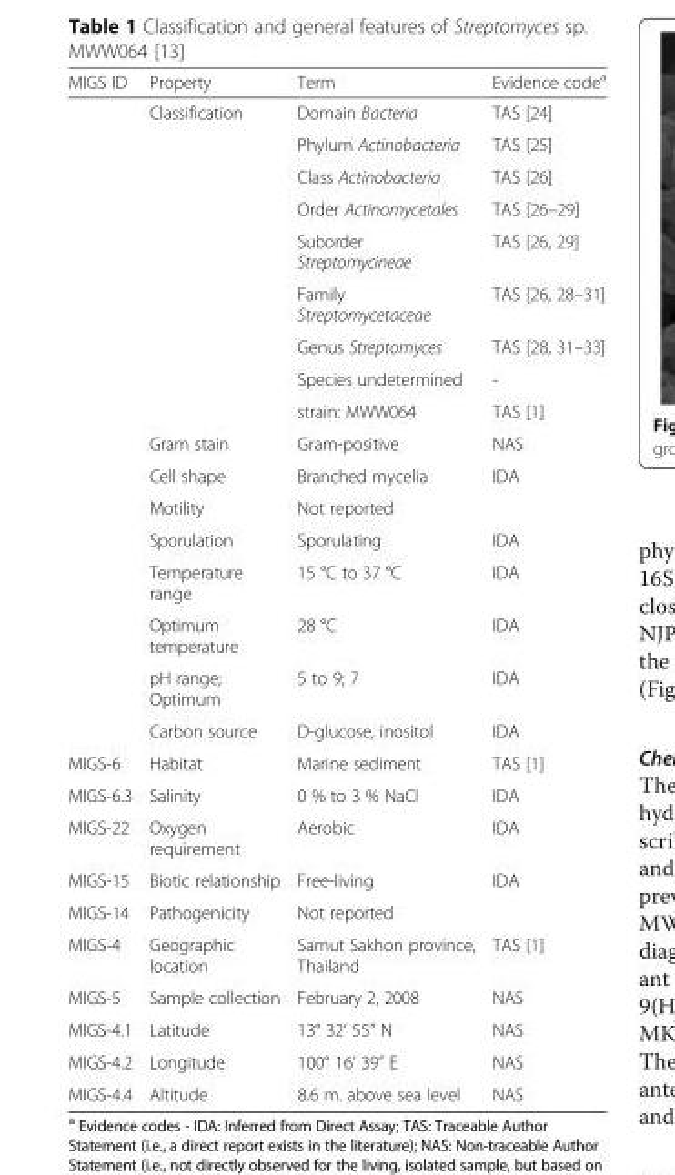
<table><thead><tr><td>MIGS ID</td><td>Property</td><td>Term</td><td>Evidence code<sup>a</sup></td></tr></thead><tbody><tr><td></td><td>Classification</td><td>Domain Bacteria</td><td>TAS [24]</td></tr><tr><td></td><td></td><td>Phylum Actinobacteria</td><td>TAS [25]</td></tr><tr><td></td><td></td><td>Class Actinobacteria</td><td>TAS [26]</td></tr><tr><td></td><td></td><td>Order Actinomycetales</td><td>TAS [26–29]</td></tr><tr><td></td><td></td><td>Suborder Streptomycineae</td><td>TAS [26, 29]</td></tr><tr><td></td><td></td><td>Family Streptomycetaceae</td><td>TAS [26, 28–31]</td></tr><tr><td></td><td></td><td>Genus Streptomyces</td><td>TAS [28, 31–33]</td></tr><tr><td></td><td></td><td>Species undetermined</td><td>-</td></tr><tr><td></td><td></td><td>strain: MWW064</td><td>TAS [1]</td></tr><tr><td></td><td>Gram stain</td><td>Gram-positive</td><td>NAS</td></tr><tr><td></td><td>Cell shape</td><td>Branched mycelia</td><td>IDA</td></tr><tr><td></td><td>Motility</td><td>Not reported</td><td></td></tr><tr><td></td><td>Sporulation</td><td>Sporulating</td><td>IDA</td></tr><tr><td></td><td>Temperature range</td><td>15 °C to 37 °C</td><td>IDA</td></tr><tr><td></td><td>Optimum temperature</td><td>28 °C</td><td>IDA</td></tr><tr><td></td><td>pH range; Optimum</td><td>5 to 9; 7</td><td>IDA</td></tr><tr><td></td><td>Carbon source</td><td>D-glucose, inositol</td><td>IDA</td></tr><tr><td>MIGS-6</td><td>Habitat</td><td>Marine sediment</td><td>TAS [1]</td></tr><tr><td>MIGS-6.3</td><td>Salinity</td><td>0 % to 3 % NaCl</td><td>IDA</td></tr><tr><td>MIGS-22</td><td>Oxygen requirement</td><td>Aerobic</td><td>IDA</td></tr><tr><td>MIGS-15</td><td>Biotic relationship</td><td>Free-living</td><td>IDA</td></tr><tr><td>MIGS-14</td><td>Pathogenicity</td><td>Not reported</td><td></td></tr><tr><td>MIGS-4</td><td>Geographic location</td><td>Samut Sakhon province, Thailand</td><td>TAS [1]</td></tr><tr><td>MIGS-5</td><td>Sample collection</td><td>February 2, 2008</td><td>NAS</td></tr><tr><td>MIGS-4.1</td><td>Latitude</td><td>13° 32’ 55” N</td><td>NAS</td></tr><tr><td>MIGS-4.2</td><td>Longitude</td><td>100° 16’ 39” E</td><td>NAS</td></tr><tr><td>MIGS-4.4</td><td>Altitude</td><td>8.6 m. above sea level</td><td>NAS</td></tr></tbody></table>